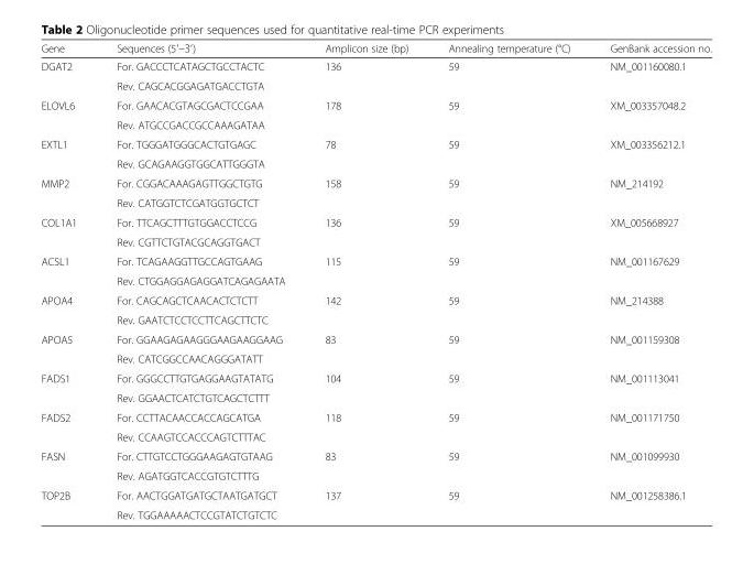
<table><thead><tr><td>Gene</td><td>Sequences (5′–3′)</td><td>Amplicon size (bp)</td><td>Annealing temperature (°C)</td><td>GenBank accession no.</td></tr></thead><tbody><tr><td rowspan="2">DGAT2</td><td>For. GACCCTCATAGCTGCCTACTC</td><td rowspan="2">136</td><td rowspan="2">59</td><td rowspan="2">NM_001160080.1</td></tr><tr><td>Rev. CAGCACGGAGATGACCTGTA</td></tr><tr><td rowspan="2">ELOVL6</td><td>For. GAACACGTAGCGACTCCGAA</td><td rowspan="2">178</td><td rowspan="2">59</td><td rowspan="2">XM_003357048.2</td></tr><tr><td>Rev. ATGCCGACCGCCAAAGATAA</td></tr><tr><td rowspan="2">EXTL1</td><td>For. TGGGATGGGCACTGTGAGC</td><td rowspan="2">78</td><td rowspan="2">59</td><td rowspan="2">XM_003356212.1</td></tr><tr><td>Rev. GCAGAAGGTGGCATTGGGTA</td></tr><tr><td rowspan="2">MMP2</td><td>For. CGGACAAAGAGTTGGCTGTG</td><td rowspan="2">158</td><td rowspan="2">59</td><td rowspan="2">NM_214192</td></tr><tr><td>Rev. CATGGTCTCGATGGTGCTCT</td></tr><tr><td rowspan="2">COL1A1</td><td>For. TTCAGCTTTGTGGACCTCCG</td><td rowspan="2">136</td><td rowspan="2">59</td><td rowspan="2">XM_005668927</td></tr><tr><td>Rev. CGTTCTGTACGCAGGTGACT</td></tr><tr><td rowspan="2">ACSL1</td><td>For. TCAGAAGGTTGCCAGTGAAG</td><td rowspan="2">115</td><td rowspan="2">59</td><td rowspan="2">NM_001167629</td></tr><tr><td>Rev. CTGGAGGAGAGGATCAGAGAATA</td></tr><tr><td rowspan="2">APOA4</td><td>For. CAGCAGCTCAACACTCTCTT</td><td rowspan="2">142</td><td rowspan="2">59</td><td rowspan="2">NM_214388</td></tr><tr><td>Rev. GAATCTCCTCCTTCAGCTTCTC</td></tr><tr><td rowspan="2">APOA5</td><td>For. GGAAGAGAAGGGAAGAAGGAAG</td><td rowspan="2">83</td><td rowspan="2">59</td><td rowspan="2">NM_001159308</td></tr><tr><td>Rev. CATCGGCCAACAGGGATATT</td></tr><tr><td rowspan="2">FADS1</td><td>For. GGGCCTTGTGAGGAAGTATATG</td><td rowspan="2">104</td><td rowspan="2">59</td><td rowspan="2">NM_001113041</td></tr><tr><td>Rev. GGAACTCATCTGTCAGCTCTTT</td></tr><tr><td rowspan="2">FADS2</td><td>For. CCTTACAACCACCAGCATGA</td><td rowspan="2">118</td><td rowspan="2">59</td><td rowspan="2">NM_001171750</td></tr><tr><td>Rev. CCAAGTCCACCCAGTCTTTAC</td></tr><tr><td rowspan="2">FASN</td><td>For. CTTGTCCTGGGAAGAGTGTAAG</td><td rowspan="2">83</td><td rowspan="2">59</td><td rowspan="2">NM_001099930</td></tr><tr><td>Rev. AGATGGTCACCGTGTCTTTG</td></tr><tr><td rowspan="2">TOP2B</td><td>For. AACTGGATGATGCTAATGATGCT</td><td rowspan="2">137</td><td rowspan="2">59</td><td rowspan="2">NM_001258386.1</td></tr><tr><td>Rev. TGGAAAAACTCCGTATCTGTCTC</td></tr></tbody></table>